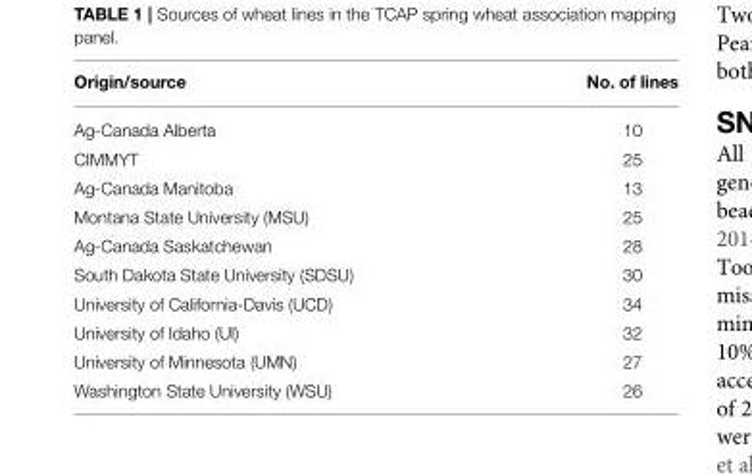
<table><thead><tr><td>Origin/source</td><td>No. of lines</td></tr></thead><tbody><tr><td>Ag-Canada Alberta</td><td>10</td></tr><tr><td>CIMMYT</td><td>25</td></tr><tr><td>Ag-Canada Manitoba</td><td>13</td></tr><tr><td>Montana State University (MSU)</td><td>25</td></tr><tr><td>Ag-Canada Saskatchewan</td><td>28</td></tr><tr><td>South Dakota State University (SDSU)</td><td>30</td></tr><tr><td>University of California-Davis (UCD)</td><td>34</td></tr><tr><td>University of Idaho (UI)</td><td>32</td></tr><tr><td>University of Minnesota (UMN)</td><td>27</td></tr><tr><td>Washington State University (WSU)</td><td>26</td></tr></tbody></table>